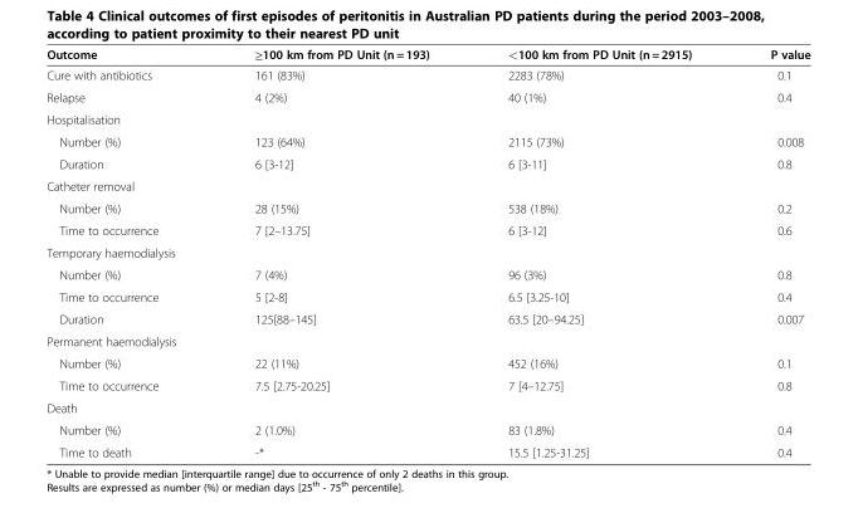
<table><thead><tr><td>Outcome</td><td>≥100 km from PD Unit (n = 193)</td><td>&lt;100 km from PD Unit (n = 2915)</td><td>P value</td></tr></thead><tbody><tr><td>Cure with antibiotics</td><td>161 (83%)</td><td>2283 (78%)</td><td>0.1</td></tr><tr><td>Relapse</td><td>4 (2%)</td><td>40 (1%)</td><td>0.4</td></tr><tr><td colspan="4">Hospitalisation</td></tr><tr><td>Number (%)</td><td>123 (64%)</td><td>2115 (73%)</td><td>0.008</td></tr><tr><td>Duration</td><td>6 [3-12]</td><td>6 [3-11]</td><td>0.8</td></tr><tr><td colspan="4">Catheter removal</td></tr><tr><td>Number (%)</td><td>28 (15%)</td><td>538 (18%)</td><td>0.2</td></tr><tr><td>Time to occurrence</td><td>7 [2–13.75]</td><td>6 [3-12]</td><td>0.6</td></tr><tr><td colspan="4">Temporary haemodialysis</td></tr><tr><td>Number (%)</td><td>7 (4%)</td><td>96 (3%)</td><td>0.8</td></tr><tr><td>Time to occurrence</td><td>5 [2-8]</td><td>6.5 [3.25-10]</td><td>0.4</td></tr><tr><td>Duration</td><td>125[88–145]</td><td>63.5 [20–94.25]</td><td>0.007</td></tr><tr><td colspan="4">Permanent haemodialysis</td></tr><tr><td>Number (%)</td><td>22 (11%)</td><td>452 (16%)</td><td>0.1</td></tr><tr><td>Time to occurrence</td><td>7.5 [2.75-20.25]</td><td>7 [4–12.75]</td><td>0.8</td></tr><tr><td colspan="4">Death</td></tr><tr><td>Number (%)</td><td>2 (1.0%)</td><td>83 (1.8%)</td><td>0.4</td></tr><tr><td>Time to death</td><td>-*</td><td>15.5 [1.25-31.25]</td><td>0.4</td></tr></tbody></table>